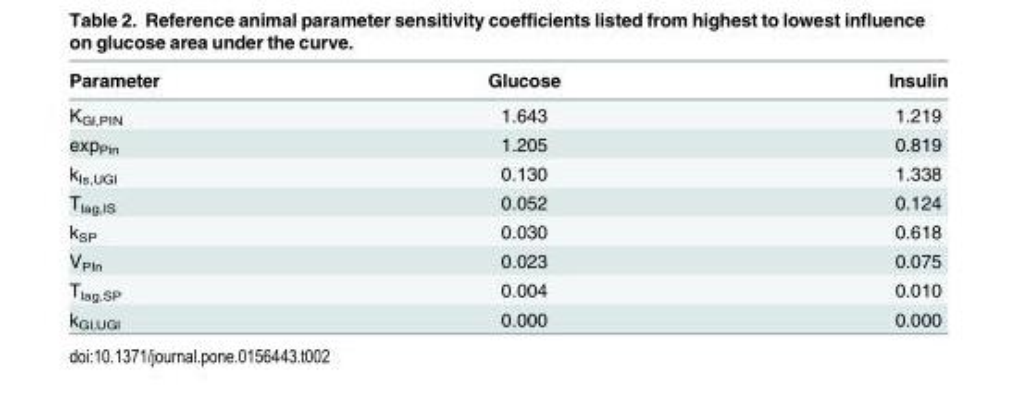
<table><thead><tr><td>Parameter</td><td>Glucose</td><td>Insulin</td></tr></thead><tbody><tr><td>K<sub>Gl,PIN</sub></td><td>1.643</td><td>1.219</td></tr><tr><td>exp<sub>Pin</sub></td><td>1.205</td><td>0.819</td></tr><tr><td>k<sub>Is,UGl</sub></td><td>0.130</td><td>1.338</td></tr><tr><td>T<sub>lag,IS</sub></td><td>0.052</td><td>0.124</td></tr><tr><td>k<sub>SP</sub></td><td>0.030</td><td>0.618</td></tr><tr><td>V<sub>PIn</sub></td><td>0.023</td><td>0.075</td></tr><tr><td>T<sub>lag,SP</sub></td><td>0.004</td><td>0.010</td></tr><tr><td>k<sub>Gl,UGl</sub></td><td>0.000</td><td>0.000</td></tr></tbody></table>